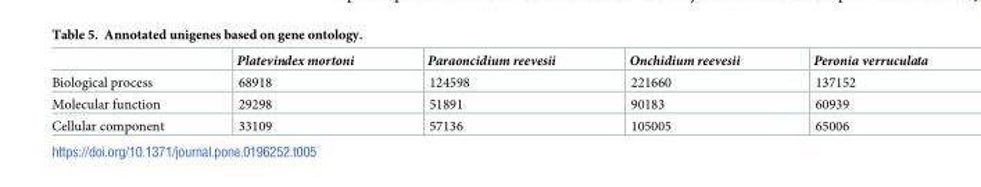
<table><thead><tr><td></td><td>Platevindex mortoni</td><td>Paraoncidium reevesii</td><td>Onchidium reevesii</td><td>Peronia verruculata</td></tr></thead><tbody><tr><td>Biological process</td><td>68918</td><td>124598</td><td>221660</td><td>137152</td></tr><tr><td>Molecular function</td><td>29298</td><td>51891</td><td>90183</td><td>60939</td></tr><tr><td>Cellular component</td><td>33109</td><td>57136</td><td>105005</td><td>65006</td></tr></tbody></table>